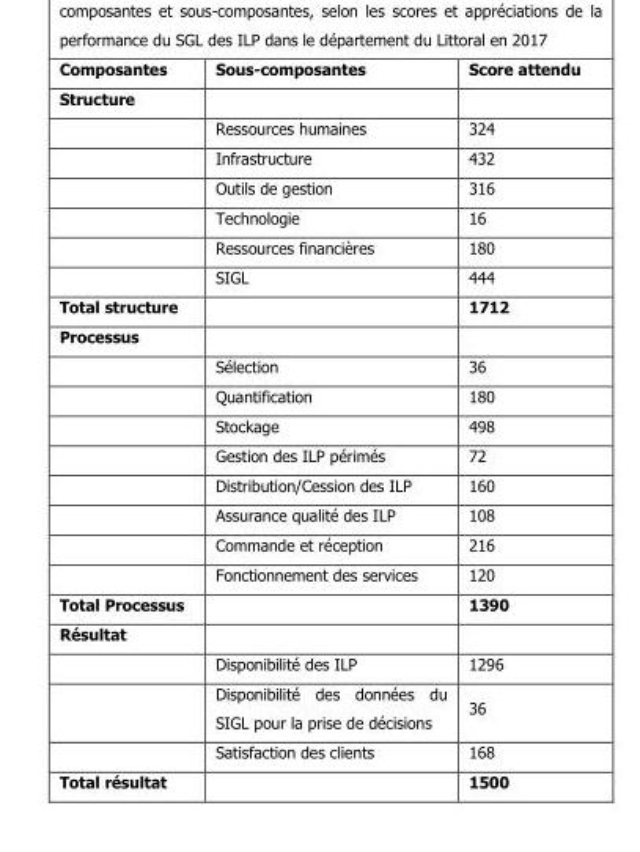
<table><thead><tr><td>Composantes</td><td>Sous-composantes</td><td>Score attendu</td></tr></thead><tbody><tr><td colspan="3">Structure</td></tr><tr><td></td><td>Ressources humaines</td><td>324</td></tr><tr><td></td><td>Infrastructure</td><td>432</td></tr><tr><td></td><td>Outils de gestion</td><td>316</td></tr><tr><td></td><td>Technologie</td><td>16</td></tr><tr><td></td><td>Ressources financières</td><td>180</td></tr><tr><td></td><td>SIGL</td><td>444</td></tr><tr><td>Total structure</td><td></td><td>1712</td></tr><tr><td colspan="3">Processus</td></tr><tr><td></td><td>Sélection</td><td>36</td></tr><tr><td></td><td>Quantification</td><td>180</td></tr><tr><td></td><td>Stockage</td><td>498</td></tr><tr><td></td><td>Gestion des ILP périmés</td><td>72</td></tr><tr><td></td><td>Distribution/Cession des ILP</td><td>160</td></tr><tr><td></td><td>Assurance qualité des ILP</td><td>108</td></tr><tr><td></td><td>Commande et réception</td><td>216</td></tr><tr><td></td><td>Fonctionnement des services</td><td>120</td></tr><tr><td>Total Processus</td><td></td><td>1390</td></tr><tr><td colspan="3">Résultat</td></tr><tr><td></td><td>Disponibilité des ILP</td><td>1296</td></tr><tr><td></td><td>Disponibilité des données du SIGL pour la prise de décisions</td><td>36</td></tr><tr><td></td><td>Satisfaction des clients</td><td>168</td></tr><tr><td>Total résultat</td><td></td><td>1500</td></tr></tbody></table>